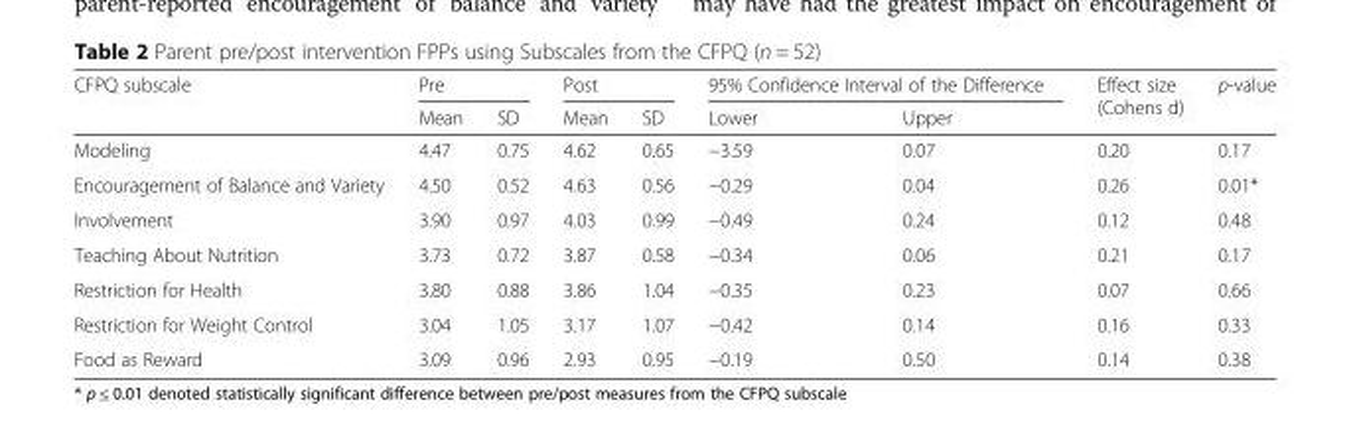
<table><thead><tr><td rowspan="2">CFPQ subscale</td><td colspan="2">Pre</td><td colspan="2">Post</td><td colspan="2">95% Confidence Interval of the Difference</td><td rowspan="2">Effect size (Cohens d)</td><td rowspan="2">p-value</td></tr><tr><td>Mean</td><td>SD</td><td>Mean</td><td>SD</td><td>Lower</td><td>Upper</td></tr></thead><tbody><tr><td>Modeling</td><td>4.47</td><td>0.75</td><td>4.62</td><td>0.65</td><td>−3.59</td><td>0.07</td><td>0.20</td><td>0.17</td></tr><tr><td>Encouragement of Balance and Variety</td><td>4.50</td><td>0.52</td><td>4.63</td><td>0.56</td><td>−0.29</td><td>0.04</td><td>0.26</td><td>0.01*</td></tr><tr><td>Involvement</td><td>3.90</td><td>0.97</td><td>4.03</td><td>0.99</td><td>−0.49</td><td>0.24</td><td>0.12</td><td>0.48</td></tr><tr><td>Teaching About Nutrition</td><td>3.73</td><td>0.72</td><td>3.87</td><td>0.58</td><td>−0.34</td><td>0.06</td><td>0.21</td><td>0.17</td></tr><tr><td>Restriction for Health</td><td>3.80</td><td>0.88</td><td>3.86</td><td>1.04</td><td>−0.35</td><td>0.23</td><td>0.07</td><td>0.66</td></tr><tr><td>Restriction for Weight Control</td><td>3.04</td><td>1.05</td><td>3.17</td><td>1.07</td><td>−0.42</td><td>0.14</td><td>0.16</td><td>0.33</td></tr><tr><td>Food as Reward</td><td>3.09</td><td>0.96</td><td>2.93</td><td>0.95</td><td>−0.19</td><td>0.50</td><td>0.14</td><td>0.38</td></tr></tbody></table>